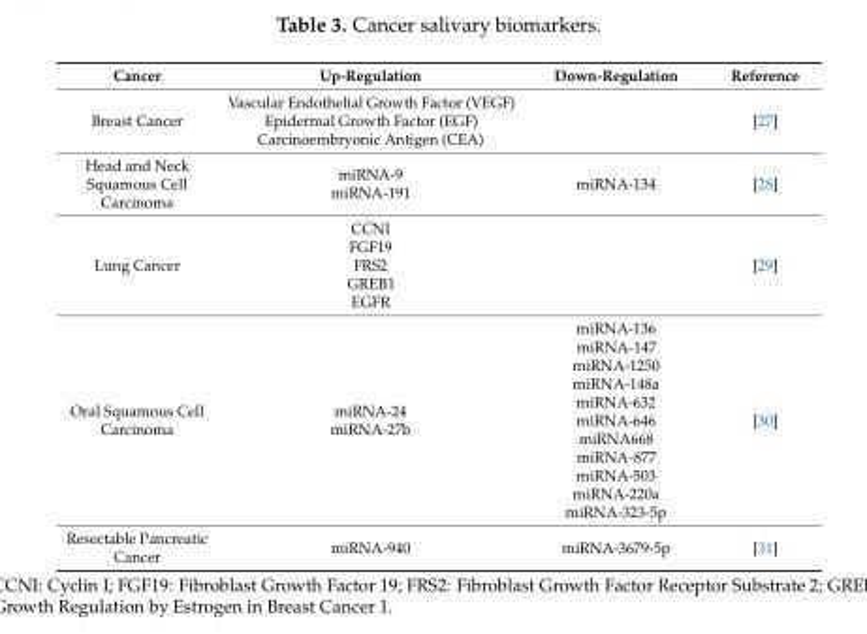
<table><thead><tr><td>Cancer</td><td>Up-Regulation</td><td>Down-Regulation</td><td>Reference</td></tr></thead><tbody><tr><td>Breast Cancer</td><td>Vascular Endothelial Growth Factor (VEGF) Epidermal Growth Factor (EGF) Carcinoembryonic Antigen (CEA)</td><td></td><td>[27]</td></tr><tr><td>Head and Neck Squamous Cell Carcinoma</td><td>miRNA-9 miRNA-191</td><td>miRNA-134</td><td>[28]</td></tr><tr><td>Lung Cancer</td><td>CCNI FGF19 FRS2 GREB1 EGFR</td><td></td><td>[29]</td></tr><tr><td>Oral Squamous Cell Carcinoma</td><td>miRNA-24 miRNA-27b</td><td>miRNA-136 miRNA-147 miRNA-1250 miRNA-148a miRNA-632 miRNA-646 miRNA668 miRNA-877 miRNA-503 miRNA-220a miRNA-323-5p</td><td>[30]</td></tr><tr><td>Resectable Pancreatic Cancer</td><td>miRNA-940</td><td>miRNA-3679-5p</td><td>[31]</td></tr></tbody></table>